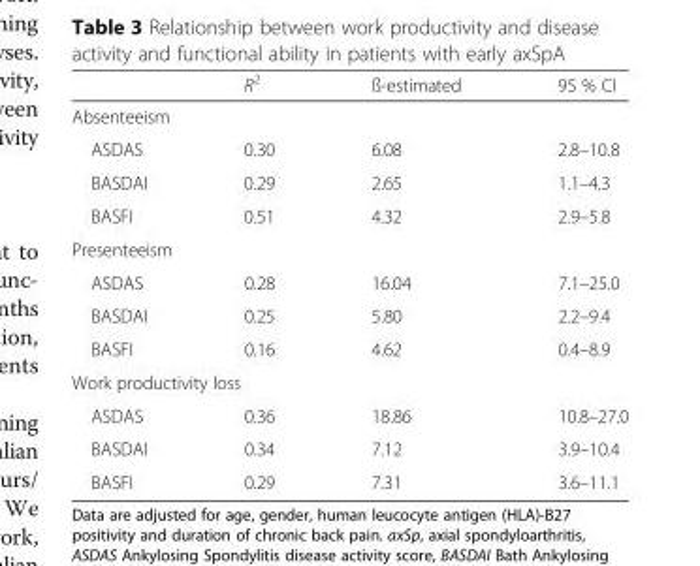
<table><thead><tr><td></td><td>R<sup>2</sup></td><td>ß-estimated</td><td>95 % CI</td></tr></thead><tbody><tr><td colspan="4">Absenteeism</td></tr><tr><td>ASDAS</td><td>0.30</td><td>6.08</td><td>2.8–10.8</td></tr><tr><td>BASDAI</td><td>0.29</td><td>2.65</td><td>1.1–4.3</td></tr><tr><td>BASFI</td><td>0.51</td><td>4.32</td><td>2.9–5.8</td></tr><tr><td colspan="4">Presenteeism</td></tr><tr><td>ASDAS</td><td>0.28</td><td>16.04</td><td>7.1–25.0</td></tr><tr><td>BASDAI</td><td>0.25</td><td>5.80</td><td>2.2–9.4</td></tr><tr><td>BASFI</td><td>0.16</td><td>4.62</td><td>0.4–8.9</td></tr><tr><td colspan="4">Work productivity loss</td></tr><tr><td>ASDAS</td><td>0.36</td><td>18.86</td><td>10.8–27.0</td></tr><tr><td>BASDAI</td><td>0.34</td><td>7.12</td><td>3.9–10.4</td></tr><tr><td>BASFI</td><td>0.29</td><td>7.31</td><td>3.6–11.1</td></tr></tbody></table>